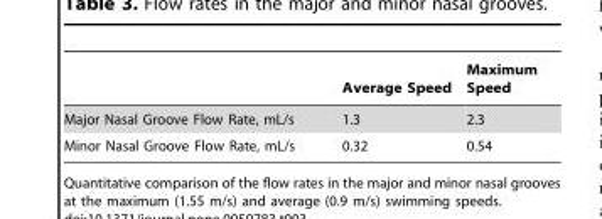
<table><thead><tr><td></td><td>Average Speed</td><td>Maximum Speed</td></tr></thead><tbody><tr><td>Major Nasal Groove Flow Rate, mL/s</td><td>1.3</td><td>2.3</td></tr><tr><td>Minor Nasal Groove Flow Rate, mL/s</td><td>0.32</td><td>0.54</td></tr></tbody></table>